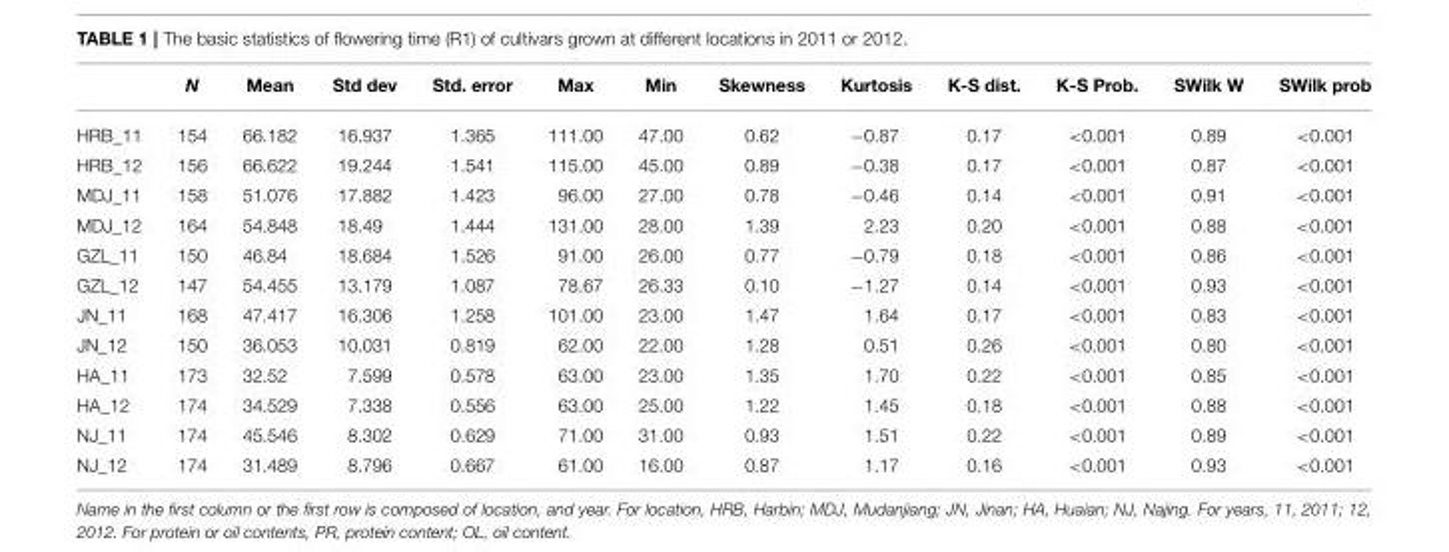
<table><thead><tr><td></td><td>N</td><td>Mean</td><td>Std dev</td><td>Std. error</td><td>Max</td><td>Min</td><td>Skewness</td><td>Kurtosis</td><td>K-S dist.</td><td>K-S Prob.</td><td>SWilk W</td><td>SWilk prob</td></tr></thead><tbody><tr><td>HRB_11</td><td>154</td><td>66.182</td><td>16.937</td><td>1.365</td><td>111.00</td><td>47.00</td><td>0.62</td><td>−0.87</td><td>0.17</td><td>&lt;0.001</td><td>0.89</td><td>&lt;0.001</td></tr><tr><td>HRB_12</td><td>156</td><td>66.622</td><td>19.244</td><td>1.541</td><td>115.00</td><td>45.00</td><td>0.89</td><td>−0.38</td><td>0.17</td><td>&lt;0.001</td><td>0.87</td><td>&lt;0.001</td></tr><tr><td>MDJ_11</td><td>158</td><td>51.076</td><td>17.882</td><td>1.423</td><td>96.00</td><td>27.00</td><td>0.78</td><td>−0.46</td><td>0.14</td><td>&lt;0.001</td><td>0.91</td><td>&lt;0.001</td></tr><tr><td>MDJ_12</td><td>164</td><td>54.848</td><td>18.49</td><td>1.444</td><td>131.00</td><td>28.00</td><td>1.39</td><td>2.23</td><td>0.20</td><td>&lt;0.001</td><td>0.88</td><td>&lt;0.001</td></tr><tr><td>GZL_11</td><td>150</td><td>46.84</td><td>18.684</td><td>1.526</td><td>91.00</td><td>26.00</td><td>0.77</td><td>−0.79</td><td>0.18</td><td>&lt;0.001</td><td>0.86</td><td>&lt;0.001</td></tr><tr><td>GZL_12</td><td>147</td><td>54.455</td><td>13.179</td><td>1.087</td><td>78.67</td><td>26.33</td><td>0.10</td><td>−1.27</td><td>0.14</td><td>&lt;0.001</td><td>0.93</td><td>&lt;0.001</td></tr><tr><td>JN_11</td><td>168</td><td>47.417</td><td>16.306</td><td>1.258</td><td>101.00</td><td>23.00</td><td>1.47</td><td>1.64</td><td>0.17</td><td>&lt;0.001</td><td>0.83</td><td>&lt;0.001</td></tr><tr><td>JN_12</td><td>150</td><td>36.053</td><td>10.031</td><td>0.819</td><td>62.00</td><td>22.00</td><td>1.28</td><td>0.51</td><td>0.26</td><td>&lt;0.001</td><td>0.80</td><td>&lt;0.001</td></tr><tr><td>HA_11</td><td>173</td><td>32.52</td><td>7.599</td><td>0.578</td><td>63.00</td><td>23.00</td><td>1.35</td><td>1.70</td><td>0.22</td><td>&lt;0.001</td><td>0.85</td><td>&lt;0.001</td></tr><tr><td>HA_12</td><td>174</td><td>34.529</td><td>7.338</td><td>0.556</td><td>63.00</td><td>25.00</td><td>1.22</td><td>1.45</td><td>0.18</td><td>&lt;0.001</td><td>0.88</td><td>&lt;0.001</td></tr><tr><td>NJ_11</td><td>174</td><td>45.546</td><td>8.302</td><td>0.629</td><td>71.00</td><td>31.00</td><td>0.93</td><td>1.51</td><td>0.22</td><td>&lt;0.001</td><td>0.89</td><td>&lt;0.001</td></tr><tr><td>NJ_12</td><td>174</td><td>31.489</td><td>8.796</td><td>0.667</td><td>61.00</td><td>16.00</td><td>0.87</td><td>1.17</td><td>0.16</td><td>&lt;0.001</td><td>0.93</td><td>&lt;0.001</td></tr></tbody></table>